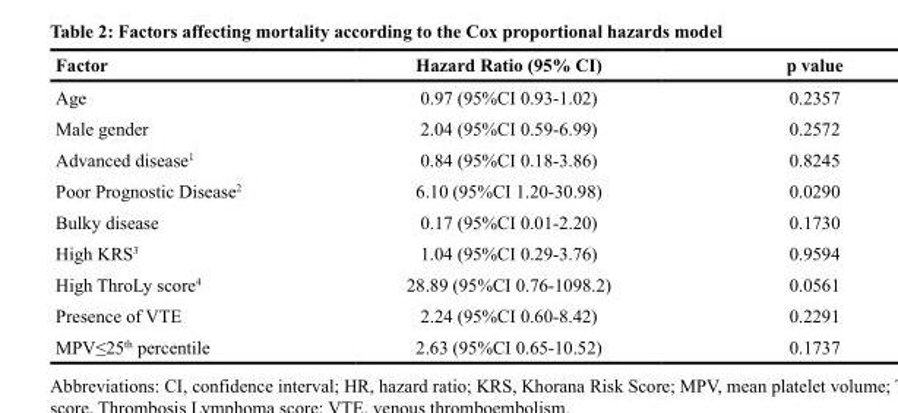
<table><thead><tr><td>Factor</td><td>Hazard Ratio (95% CI)</td><td>p value</td></tr></thead><tbody><tr><td>Age</td><td>0.97 (95%CI 0.93-1.02)</td><td>0.2357</td></tr><tr><td>Male gender</td><td>2.04 (95%CI 0.59-6.99)</td><td>0.2572</td></tr><tr><td>Advanced disease<sup>1</sup></td><td>0.84 (95%CI 0.18-3.86)</td><td>0.8245</td></tr><tr><td>Poor Prognostic Disease<sup>2</sup></td><td>6.10 (95%CI 1.20-30.98)</td><td>0.0290</td></tr><tr><td>Bulky disease</td><td>0.17 (95%CI 0.01-2.20)</td><td>0.1730</td></tr><tr><td>High KRS<sup>3</sup></td><td>1.04 (95%CI 0.29-3.76)</td><td>0.9594</td></tr><tr><td>High ThroLy score<sup>4</sup></td><td>28.89 (95%CI 0.76-1098.2)</td><td>0.0561</td></tr><tr><td>Presence of VTE</td><td>2.24 (95%CI 0.60-8.42)</td><td>0.2291</td></tr><tr><td>MPV≤25<sup>th</sup> percentile</td><td>2.63 (95%CI 0.65-10.52)</td><td>0.1737</td></tr></tbody></table>